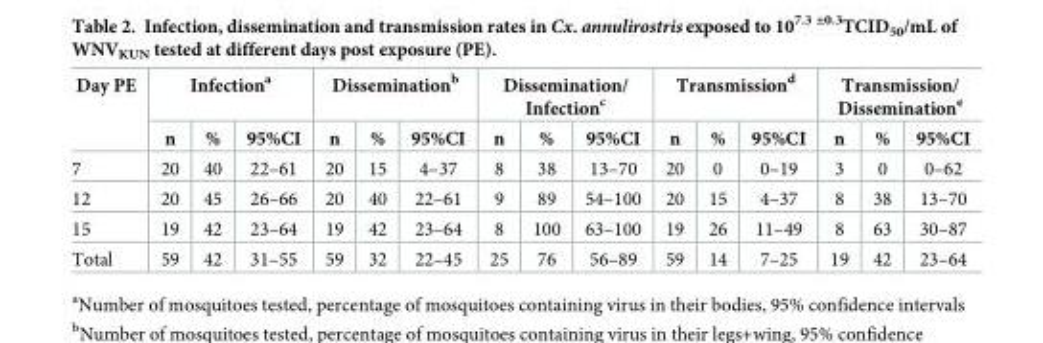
<table><thead><tr><td rowspan="2">Day PE</td><td colspan="3">Infection<sup>a</sup></td><td colspan="3">Dissemination<sup>b</sup></td><td colspan="3">Dissemination/ Infection<sup>c</sup></td><td colspan="3">Transmission<sup>d</sup></td><td colspan="3">Transmission/ Dissemination<sup>e</sup></td></tr><tr><td>n</td><td>%</td><td>95%CI</td><td>n</td><td>%</td><td>95%CI</td><td>n</td><td>%</td><td>95%CI</td><td>n</td><td>%</td><td>95%CI</td><td>n</td><td>%</td><td>95%CI</td></tr></thead><tbody><tr><td>7</td><td>20</td><td>40</td><td>22–61</td><td>20</td><td>15</td><td>4–37</td><td>8</td><td>38</td><td>13–70</td><td>20</td><td>0</td><td>0–19</td><td>3</td><td>0</td><td>0–62</td></tr><tr><td>12</td><td>20</td><td>45</td><td>26–66</td><td>20</td><td>40</td><td>22–61</td><td>9</td><td>89</td><td>54–100</td><td>20</td><td>15</td><td>4–37</td><td>8</td><td>38</td><td>13–70</td></tr><tr><td>15</td><td>19</td><td>42</td><td>23–64</td><td>19</td><td>42</td><td>23–64</td><td>8</td><td>100</td><td>63–100</td><td>19</td><td>26</td><td>11–49</td><td>8</td><td>63</td><td>30–87</td></tr><tr><td>Total</td><td>59</td><td>42</td><td>31–55</td><td>59</td><td>32</td><td>22–45</td><td>25</td><td>76</td><td>56–89</td><td>59</td><td>14</td><td>7–25</td><td>19</td><td>42</td><td>23–64</td></tr></tbody></table>